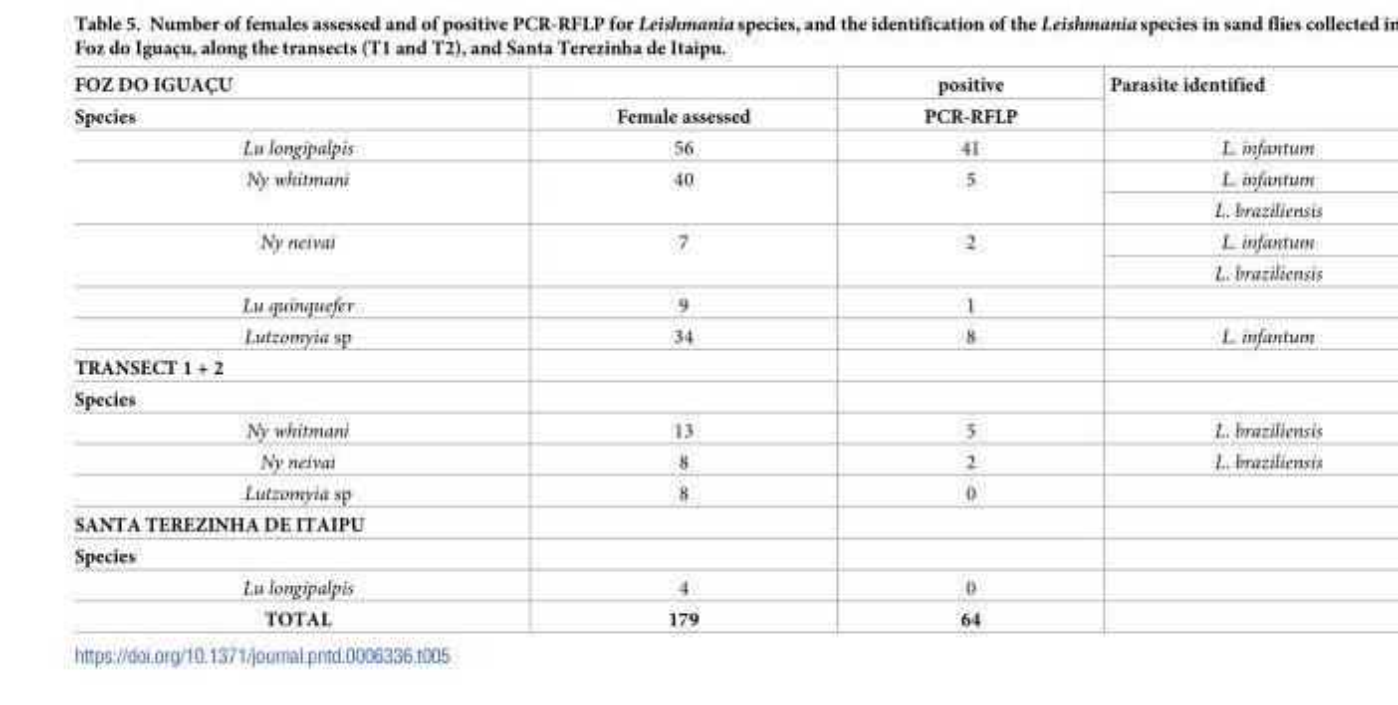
<table><thead><tr><td rowspan="2">FOZ DO IGUAC¸U Species</td><td rowspan="2">Female assessed</td><td rowspan="2">positive PCR-RFLP</td><td rowspan="2">Parasite identified</td></tr><tr></tr></thead><tbody><tr><td>Lu longipalpis</td><td>56</td><td>41</td><td>L. infantum</td></tr><tr><td rowspan="2">Ny whitmani</td><td rowspan="2">40</td><td rowspan="2">5</td><td>L. infantum</td></tr><tr><td>L. braziliensis</td></tr><tr><td rowspan="2">Ny neivai</td><td rowspan="2">7</td><td rowspan="2">2</td><td>L. infantum</td></tr><tr><td>L. braziliensis</td></tr><tr><td>Lu quinquefer</td><td>9</td><td>1</td><td></td></tr><tr><td>Lutzomyia sp</td><td>34</td><td>8</td><td>L. infantum</td></tr><tr><td colspan="4">TRANSECT 1 + 2</td></tr><tr><td colspan="4">Species</td></tr><tr><td>Ny whitmani</td><td>13</td><td>5</td><td>L. braziliensis</td></tr><tr><td>Ny neivai</td><td>8</td><td>2</td><td>L. braziliensis</td></tr><tr><td>Lutzomyia sp</td><td>8</td><td>0</td><td></td></tr><tr><td colspan="4">SANTA TEREZINHA DE ITAIPU</td></tr><tr><td colspan="4">Species</td></tr><tr><td>Lu longipalpis</td><td>4</td><td>0</td><td></td></tr><tr><td>TOTAL</td><td>179</td><td>64</td><td></td></tr></tbody></table>